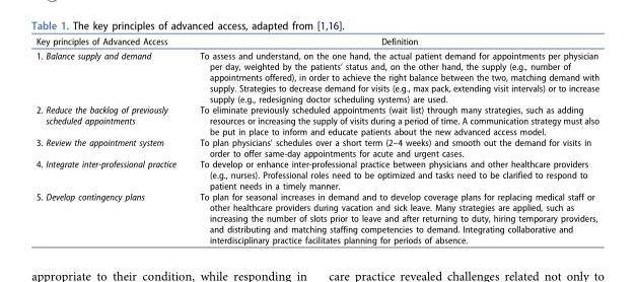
<table><thead><tr><td>Key principles of Advanced Access</td><td>Definition</td></tr></thead><tbody><tr><td>1. Balance supply and demand</td><td>To assess and understand, on the one hand, the actual patient demand for appointments per physician per day, weighted by the patients’ status and, on the other hand, the supply (e.g., number of appointments offered), in order to achieve the right balance between the two, matching demand with supply. Strategies to decrease demand for visits (e.g., max pack, extending visit intervals) or to increase supply (e.g., redesigning doctor scheduling systems) are used.</td></tr><tr><td>2. Reduce the backlog of previously scheduled appointments</td><td>To eliminate previously scheduled appointments (wait list) through many strategies, such as adding resources or increasing the supply of visits during a period of time. A communication strategy must also be put in place to inform and educate patients about the new advanced access model.</td></tr><tr><td>3. Review the appointment system</td><td>To plan physicians’ schedules over a short term (2–4 weeks) and smooth out the demand for visits in order to offer same-day appointments for acute and urgent cases.</td></tr><tr><td>4. Integrate inter-professional practice</td><td>To develop or enhance inter-professional practice between physicians and other healthcare providers (e.g., nurses). Professional roles need to be optimized and tasks need to be clarified to respond to patient needs in a timely manner.</td></tr><tr><td>5. Develop contingency plans</td><td>To plan for seasonal increases in demand and to develop coverage plans for replacing medical staff or other healthcare providers during vacation and sick leave. Many strategies are applied, such as increasing the number of slots prior to leave and after returning to duty, hiring temporary providers, and distributing and matching staffing competencies to demand. Integrating collaborative and interdisciplinary practice facilitates planning for periods of absence.</td></tr></tbody></table>